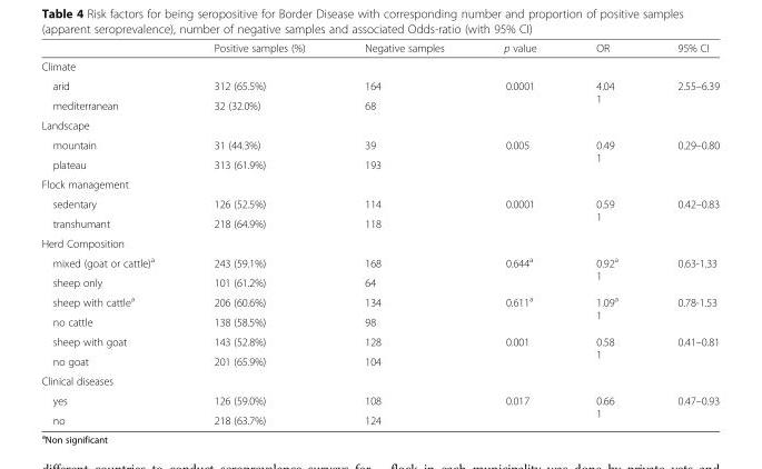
<table><thead><tr><td></td><td>Positive samples (%)</td><td>Negative samples</td><td>p value</td><td>OR</td><td>95% CI</td></tr></thead><tbody><tr><td colspan="6">Climate</td></tr><tr><td>arid</td><td>312 (65.5%)</td><td>164</td><td rowspan="2">0.0001</td><td rowspan="2">4.04 1</td><td rowspan="2">2.55–6.39</td></tr><tr><td>mediterranean</td><td>32 (32.0%)</td><td>68</td></tr><tr><td colspan="6">Landscape</td></tr><tr><td>mountain</td><td>31 (44.3%)</td><td>39</td><td rowspan="2">0.005</td><td rowspan="2">0.49 1</td><td rowspan="2">0.29–0.80</td></tr><tr><td>plateau</td><td>313 (61.9%)</td><td>193</td></tr><tr><td colspan="6">Flock management</td></tr><tr><td>sedentary</td><td>126 (52.5%)</td><td>114</td><td rowspan="2">0.0001</td><td rowspan="2">0.59 1</td><td rowspan="2">0.42–0.83</td></tr><tr><td>transhumant</td><td>218 (64.9%)</td><td>118</td></tr><tr><td colspan="6">Herd Composition</td></tr><tr><td>mixed (goat or cattle)<sup>a</sup></td><td>243 (59.1%)</td><td>168</td><td rowspan="2">0.644<sup>a</sup></td><td rowspan="2">0.92<sup>a</sup> 1</td><td rowspan="2">0.63-1.33</td></tr><tr><td>sheep only</td><td>101 (61.2%)</td><td>64</td></tr><tr><td>sheep with cattle<sup>a</sup></td><td>206 (60.6%)</td><td>134</td><td rowspan="2">0.611<sup>a</sup></td><td rowspan="2">1.09<sup>a</sup> 1</td><td rowspan="2">0.78-1.53</td></tr><tr><td>no cattle</td><td>138 (58.5%)</td><td>98</td></tr><tr><td>sheep with goat</td><td>143 (52.8%)</td><td>128</td><td rowspan="2">0.001</td><td rowspan="2">0.58 1</td><td rowspan="2">0.41–0.81</td></tr><tr><td>no goat</td><td>201 (65.9%)</td><td>104</td></tr><tr><td colspan="6">Clinical diseases</td></tr><tr><td>yes</td><td>126 (59.0%)</td><td>108</td><td rowspan="2">0.017</td><td rowspan="2">0.66 1</td><td rowspan="2">0.47–0.93</td></tr><tr><td>no</td><td>218 (63.7%)</td><td>124</td></tr></tbody></table>